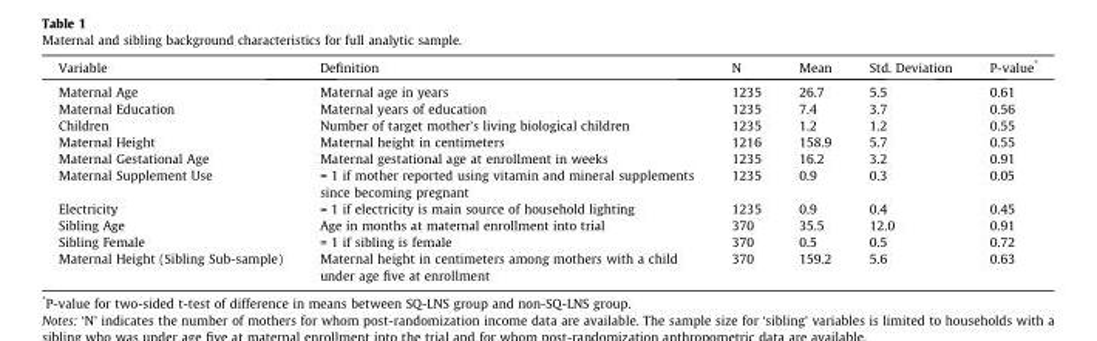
<table><thead><tr><td>Variable</td><td>Definition</td><td>N</td><td>Mean</td><td>Std. Deviation</td><td>P-value*</td></tr></thead><tbody><tr><td>Maternal Age</td><td>Maternal age in years</td><td>1235</td><td>26.7</td><td>5.5</td><td>0.61</td></tr><tr><td>Maternal Education</td><td>Maternal years of education</td><td>1235</td><td>7.4</td><td>3.7</td><td>0.56</td></tr><tr><td>Children</td><td>Number of target mother’s living biological children</td><td>1235</td><td>1.2</td><td>1.2</td><td>0.55</td></tr><tr><td>Maternal Height</td><td>Maternal height in centimeters</td><td>1216</td><td>158.9</td><td>5.7</td><td>0.55</td></tr><tr><td>Maternal Gestational Age</td><td>Maternal gestational age at enrollment in weeks</td><td>1235</td><td>16.2</td><td>3.2</td><td>0.91</td></tr><tr><td>Maternal Supplement Use</td><td>= 1 if mother reported using vitamin and mineral supplements since becoming pregnant</td><td>1235</td><td>0.9</td><td>0.3</td><td>0.05</td></tr><tr><td>Electricity</td><td>= 1 if electricity is main source of household lighting</td><td>1235</td><td>0.9</td><td>0.4</td><td>0.45</td></tr><tr><td>Sibling Age</td><td>Age in months at maternal enrollment into trial</td><td>370</td><td>35.5</td><td>12.0</td><td>0.91</td></tr><tr><td>Sibling Female</td><td>= 1 if sibling is female</td><td>370</td><td>0.5</td><td>0.5</td><td>0.72</td></tr><tr><td>Maternal Height (Sibling Sub-sample)</td><td>Maternal height in centimeters among mothers with a child under age five at enrollment</td><td>370</td><td>159.2</td><td>5.6</td><td>0.63</td></tr></tbody></table>